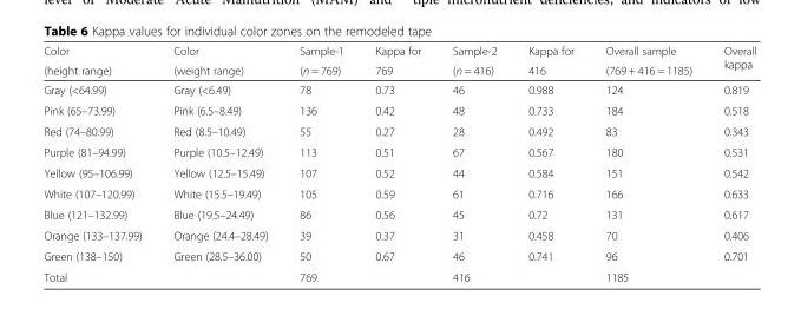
<table><thead><tr><td rowspan="2">Color (height range)</td><td rowspan="2">Color (weight range)</td><td rowspan="2">Sample-1 (n = 769)</td><td rowspan="2">Kappa for 769</td><td rowspan="2">Sample-2 (n = 416)</td><td rowspan="2">Kappa for 416</td><td rowspan="2">Overall sample (769 + 416 = 1185)</td><td rowspan="2">Overall kappa</td></tr><tr></tr></thead><tbody><tr><td>Gray (&lt;64.99)</td><td>Gray (&lt;6.49)</td><td>78</td><td>0.73</td><td>46</td><td>0.988</td><td>124</td><td>0.819</td></tr><tr><td>Pink (65–73.99)</td><td>Pink (6.5–8.49)</td><td>136</td><td>0.42</td><td>48</td><td>0.733</td><td>184</td><td>0.518</td></tr><tr><td>Red (74–80.99)</td><td>Red (8.5–10.49)</td><td>55</td><td>0.27</td><td>28</td><td>0.492</td><td>83</td><td>0.343</td></tr><tr><td>Purple (81–94.99)</td><td>Purple (10.5–12.49)</td><td>113</td><td>0.51</td><td>67</td><td>0.567</td><td>180</td><td>0.531</td></tr><tr><td>Yellow (95–106.99)</td><td>Yellow (12.5–15.49)</td><td>107</td><td>0.52</td><td>44</td><td>0.584</td><td>151</td><td>0.542</td></tr><tr><td>White (107–120.99)</td><td>White (15.5–19.49)</td><td>105</td><td>0.59</td><td>61</td><td>0.716</td><td>166</td><td>0.633</td></tr><tr><td>Blue (121–132.99)</td><td>Blue (19.5–24.49)</td><td>86</td><td>0.56</td><td>45</td><td>0.72</td><td>131</td><td>0.617</td></tr><tr><td>Orange (133–137.99)</td><td>Orange (24.4–28.49)</td><td>39</td><td>0.37</td><td>31</td><td>0.458</td><td>70</td><td>0.406</td></tr><tr><td>Green (138–150)</td><td>Green (28.5–36.00)</td><td>50</td><td>0.67</td><td>46</td><td>0.741</td><td>96</td><td>0.701</td></tr><tr><td>Total</td><td></td><td>769</td><td></td><td>416</td><td></td><td>1185</td><td></td></tr></tbody></table>